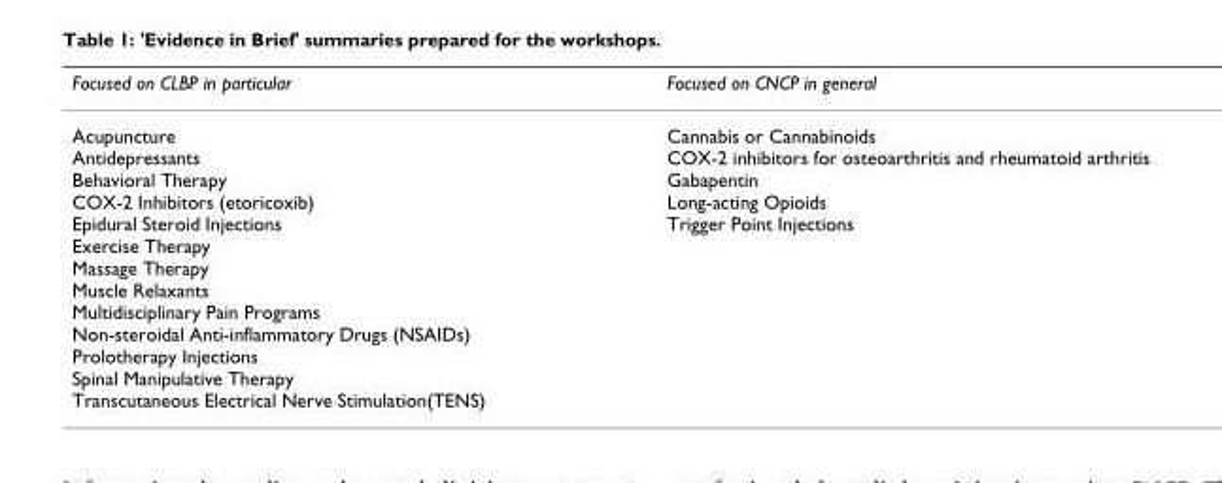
<table><thead><tr><td>Focused on CLBP in particular</td><td>Focused on CNCP in general</td></tr></thead><tbody><tr><td>Acupuncture Antidepressants Behavioral Therapy COX-2 Inhibitors (etoricoxib) Epidural Steroid Injections Exercise Therapy Massage Therapy Muscle Relaxants Multidisciplinary Pain Programs Non-steroidal Anti-inflammatory Drugs (NSAIDs) Prolotherapy Injections Spinal Manipulative Therapy Transcutaneous Electrical Nerve Stimulation(TENS)</td><td>Cannabis or Cannabinoids COX-2 inhibitors for osteoarthritis and rheumatoid arthritis Gabapentin Long-acting Opioids Trigger Point Injections</td></tr></tbody></table>